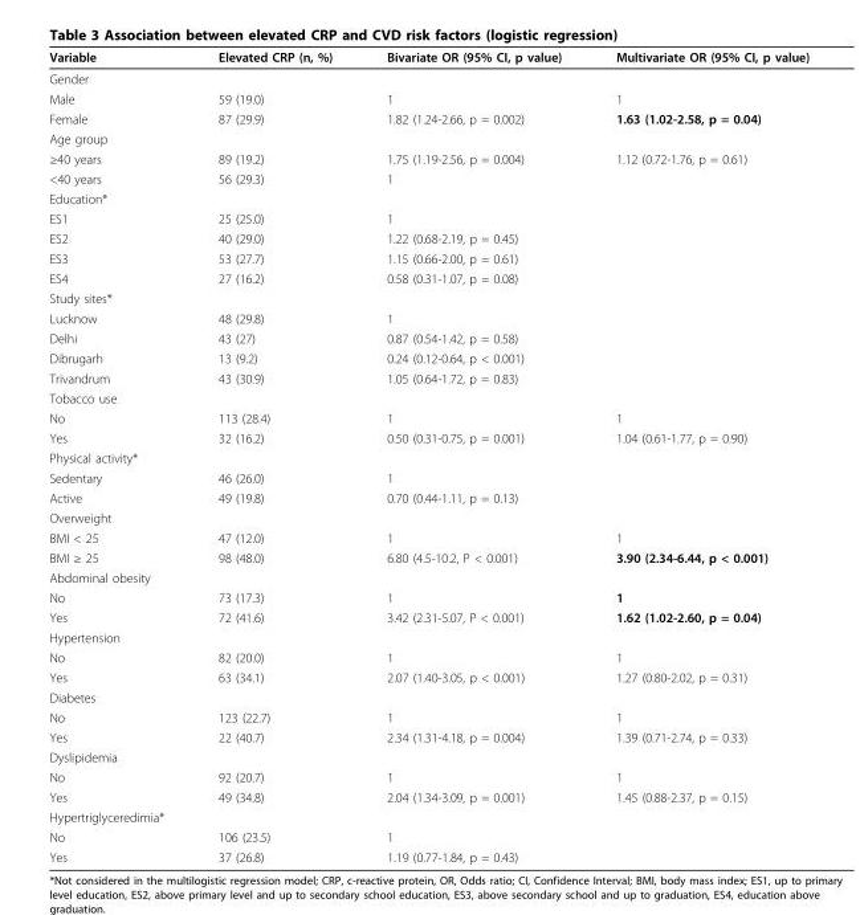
<table><thead><tr><td>Variable</td><td>Elevated CRP (n, %)</td><td>Bivariate OR (95% CI, p value)</td><td>Multivariate OR (95% CI, p value)</td></tr></thead><tbody><tr><td colspan="4">Gender</td></tr><tr><td>Male</td><td>59 (19.0)</td><td>1</td><td>1</td></tr><tr><td>Female</td><td>87 (29.9)</td><td>1.82 (1.24-2.66, p = 0.002)</td><td>1.63 (1.02-2.58, p = 0.04)</td></tr><tr><td colspan="4">Age group</td></tr><tr><td>≥40 years</td><td>89 (19.2)</td><td>1.75 (1.19-2.56, p = 0.004)</td><td>1.12 (0.72-1.76, p = 0.61)</td></tr><tr><td>&lt;40 years</td><td>56 (29.3)</td><td>1</td><td></td></tr><tr><td colspan="4">Education*</td></tr><tr><td>ES1</td><td>25 (25.0)</td><td>1</td><td></td></tr><tr><td>ES2</td><td>40 (29.0)</td><td>1.22 (0.68-2.19, p = 0.45)</td><td></td></tr><tr><td>ES3</td><td>53 (27.7)</td><td>1.15 (0.66-2.00, p = 0.61)</td><td></td></tr><tr><td>ES4</td><td>27 (16.2)</td><td>0.58 (0.31-1.07, p = 0.08)</td><td></td></tr><tr><td colspan="4">Study sites*</td></tr><tr><td>Lucknow</td><td>48 (29.8)</td><td>1</td><td></td></tr><tr><td>Delhi</td><td>43 (27)</td><td>0.87 (0.54-1.42, p = 0.58)</td><td></td></tr><tr><td>Dibrugarh</td><td>13 (9.2)</td><td>0.24 (0.12-0.64, p &lt; 0.001)</td><td></td></tr><tr><td>Trivandrum</td><td>43 (30.9)</td><td>1.05 (0.64-1.72, p = 0.83)</td><td></td></tr><tr><td colspan="4">Tobacco use</td></tr><tr><td>No</td><td>113 (28.4)</td><td>1</td><td>1</td></tr><tr><td>Yes</td><td>32 (16.2)</td><td>0.50 (0.31-0.75, p = 0.001)</td><td>1.04 (0.61-1.77, p = 0.90)</td></tr><tr><td colspan="4">Physical activity*</td></tr><tr><td>Sedentary</td><td>46 (26.0)</td><td>1</td><td></td></tr><tr><td>Active</td><td>49 (19.8)</td><td>0.70 (0.44-1.11, p = 0.13)</td><td></td></tr><tr><td colspan="4">Overweight</td></tr><tr><td>BMI &lt; 25</td><td>47 (12.0)</td><td>1</td><td>1</td></tr><tr><td>BMI ≥ 25</td><td>98 (48.0)</td><td>6.80 (4.5-10.2, P &lt; 0.001)</td><td>3.90 (2.34-6.44, p &lt; 0.001)</td></tr><tr><td colspan="4">Abdominal obesity</td></tr><tr><td>No</td><td>73 (17.3)</td><td>1</td><td>1</td></tr><tr><td>Yes</td><td>72 (41.6)</td><td>3.42 (2.31-5.07, P &lt; 0.001)</td><td>1.62 (1.02-2.60, p = 0.04)</td></tr><tr><td colspan="4">Hypertension</td></tr><tr><td>No</td><td>82 (20.0)</td><td>1</td><td>1</td></tr><tr><td>Yes</td><td>63 (34.1)</td><td>2.07 (1.40-3.05, p &lt; 0.001)</td><td>1.27 (0.80-2.02, p = 0.31)</td></tr><tr><td colspan="4">Diabetes</td></tr><tr><td>No</td><td>123 (22.7)</td><td>1</td><td>1</td></tr><tr><td>Yes</td><td>22 (40.7)</td><td>2.34 (1.31-4.18, p = 0.004)</td><td>1.39 (0.71-2.74, p = 0.33)</td></tr><tr><td colspan="4">Dyslipidemia</td></tr><tr><td>No</td><td>92 (20.7)</td><td>1</td><td>1</td></tr><tr><td>Yes</td><td>49 (34.8)</td><td>2.04 (1.34-3.09, p = 0.001)</td><td>1.45 (0.88-2.37, p = 0.15)</td></tr><tr><td colspan="4">Hypertriglyceredimia*</td></tr><tr><td>No</td><td>106 (23.5)</td><td>1</td><td></td></tr><tr><td>Yes</td><td>37 (26.8)</td><td>1.19 (0.77-1.84, p = 0.43)</td><td></td></tr></tbody></table>